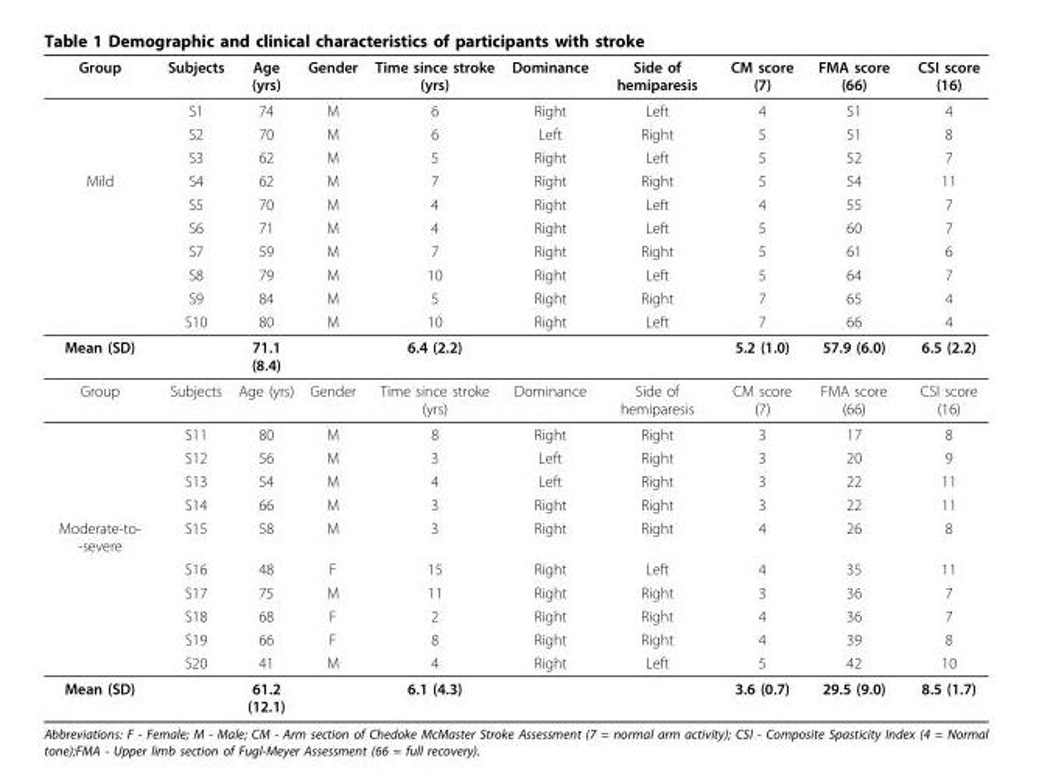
<table><thead><tr><td>Group</td><td>Subjects</td><td>Age (yrs)</td><td>Gender</td><td>Time since stroke (yrs)</td><td>Dominance</td><td>Side of hemiparesis</td><td>CM score (7)</td><td>FMA score (66)</td><td>CSI score (16)</td></tr></thead><tbody><tr><td></td><td>S1</td><td>74</td><td>M</td><td>6</td><td>Right</td><td>Left</td><td>4</td><td>51</td><td>4</td></tr><tr><td></td><td>S2</td><td>70</td><td>M</td><td>6</td><td>Left</td><td>Right</td><td>5</td><td>51</td><td>8</td></tr><tr><td></td><td>S3</td><td>62</td><td>M</td><td>5</td><td>Right</td><td>Left</td><td>5</td><td>52</td><td>7</td></tr><tr><td rowspan="7">Mild</td><td>S4</td><td>62</td><td>M</td><td>7</td><td>Right</td><td>Right</td><td>5</td><td>54</td><td>11</td></tr><tr><td>S5</td><td>70</td><td>M</td><td>4</td><td>Right</td><td>Left</td><td>4</td><td>55</td><td>7</td></tr><tr><td>S6</td><td>71</td><td>M</td><td>4</td><td>Right</td><td>Left</td><td>5</td><td>60</td><td>7</td></tr><tr><td>S7</td><td>59</td><td>M</td><td>7</td><td>Right</td><td>Right</td><td>5</td><td>61</td><td>6</td></tr><tr><td>S8</td><td>79</td><td>M</td><td>10</td><td>Right</td><td>Left</td><td>5</td><td>64</td><td>7</td></tr><tr><td>S9</td><td>84</td><td>M</td><td>5</td><td>Right</td><td>Right</td><td>7</td><td>65</td><td>4</td></tr><tr><td>S10</td><td>80</td><td>M</td><td>10</td><td>Right</td><td>Left</td><td>7</td><td>66</td><td>4</td></tr><tr><td>Mean (SD)</td><td></td><td>71.1 (8.4)</td><td></td><td>6.4 (2.2)</td><td></td><td></td><td>5.2 (1.0)</td><td>57.9 (6.0)</td><td>6.5 (2.2)</td></tr><tr><td rowspan="5">Group</td><td>Subjects</td><td>Age (yrs)</td><td>Gender</td><td>Time since stroke (yrs)</td><td>Dominance</td><td>Side of hemiparesis</td><td>CM score (7)</td><td>FMA score (66)</td><td>CSI score (16)</td></tr><tr><td>S11</td><td>80</td><td>M</td><td>8</td><td>Right</td><td>Right</td><td>3</td><td>17</td><td>8</td></tr><tr><td>S12</td><td>56</td><td>M</td><td>3</td><td>Left</td><td>Right</td><td>3</td><td>20</td><td>9</td></tr><tr><td>S13</td><td>54</td><td>M</td><td>4</td><td>Left</td><td>Right</td><td>3</td><td>22</td><td>11</td></tr><tr><td>S14</td><td>66</td><td>M</td><td>3</td><td>Right</td><td>Right</td><td>3</td><td>22</td><td>11</td></tr><tr><td rowspan="6">Moderate-to- -severe</td><td>S15</td><td>58</td><td>M</td><td>3</td><td>Right</td><td>Right</td><td>4</td><td>26</td><td>8</td></tr><tr><td>S16</td><td>48</td><td>F</td><td>15</td><td>Right</td><td>Left</td><td>4</td><td>35</td><td>11</td></tr><tr><td>S17</td><td>75</td><td>M</td><td>11</td><td>Right</td><td>Right</td><td>3</td><td>36</td><td>7</td></tr><tr><td>S18</td><td>68</td><td>F</td><td>2</td><td>Right</td><td>Right</td><td>4</td><td>36</td><td>7</td></tr><tr><td>S19</td><td>66</td><td>F</td><td>8</td><td>Right</td><td>Right</td><td>4</td><td>39</td><td>8</td></tr><tr><td>S20</td><td>41</td><td>M</td><td>4</td><td>Right</td><td>Left</td><td>5</td><td>42</td><td>10</td></tr><tr><td>Mean (SD)</td><td></td><td>61.2 (12.1)</td><td></td><td>6.1 (4.3)</td><td></td><td></td><td>3.6 (0.7)</td><td>29.5 (9.0)</td><td>8.5 (1.7)</td></tr></tbody></table>